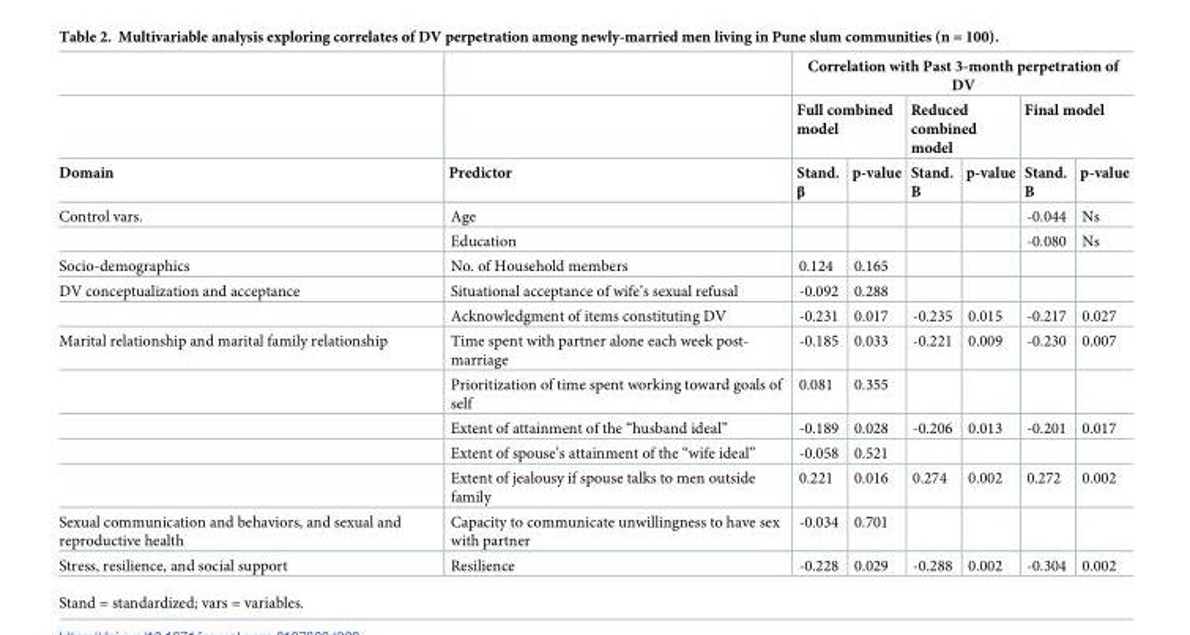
<table><thead><tr><td rowspan="3">Domain</td><td rowspan="3">Predictor</td><td colspan="6">Correlation with Past 3-month perpetration of DV</td></tr><tr><td colspan="2">Full combined model</td><td colspan="2">Reduced combined model</td><td colspan="2">Final model</td></tr><tr><td>Stand. β</td><td>p-value</td><td>Stand. Β</td><td>p-value</td><td>Stand. Β</td><td>p-value</td></tr></thead><tbody><tr><td rowspan="2">Control vars.</td><td>Age</td><td></td><td></td><td></td><td></td><td>-0.044</td><td>Ns</td></tr><tr><td>Education</td><td></td><td></td><td></td><td></td><td>-0.080</td><td>Ns</td></tr><tr><td>Socio-demographics</td><td>No. of Household members</td><td>0.124</td><td>0.165</td><td></td><td></td><td></td><td></td></tr><tr><td rowspan="2">DV conceptualization and acceptance</td><td>Situational acceptance of wife’s sexual refusal</td><td>-0.092</td><td>0.288</td><td></td><td></td><td></td><td></td></tr><tr><td>Acknowledgment of items constituting DV</td><td>-0.231</td><td>0.017</td><td>-0.235</td><td>0.015</td><td>-0.217</td><td>0.027</td></tr><tr><td rowspan="5">Marital relationship and marital family relationship</td><td>Time spent with partner alone each week post- marriage</td><td>-0.185</td><td>0.033</td><td>-0.221</td><td>0.009</td><td>-0.230</td><td>0.007</td></tr><tr><td>Prioritization of time spent working toward goals of self</td><td>0.081</td><td>0.355</td><td></td><td></td><td></td><td></td></tr><tr><td>Extent of attainment of the “husband ideal”</td><td>-0.189</td><td>0.028</td><td>-0.206</td><td>0.013</td><td>-0.201</td><td>0.017</td></tr><tr><td>Extent of spouse’s attainment of the “wife ideal”</td><td>-0.058</td><td>0.521</td><td></td><td></td><td></td><td></td></tr><tr><td>Extent of jealousy if spouse talks to men outside family</td><td>0.221</td><td>0.016</td><td>0.274</td><td>0.002</td><td>0.272</td><td>0.002</td></tr><tr><td>Sexual communication and behaviors, and sexual and reproductive health</td><td>Capacity to communicate unwillingness to have sex with partner</td><td>-0.034</td><td>0.701</td><td></td><td></td><td></td><td></td></tr><tr><td>Stress, resilience, and social support</td><td>Resilience</td><td>-0.228</td><td>0.029</td><td>-0.288</td><td>0.002</td><td>-0.304</td><td>0.002</td></tr></tbody></table>